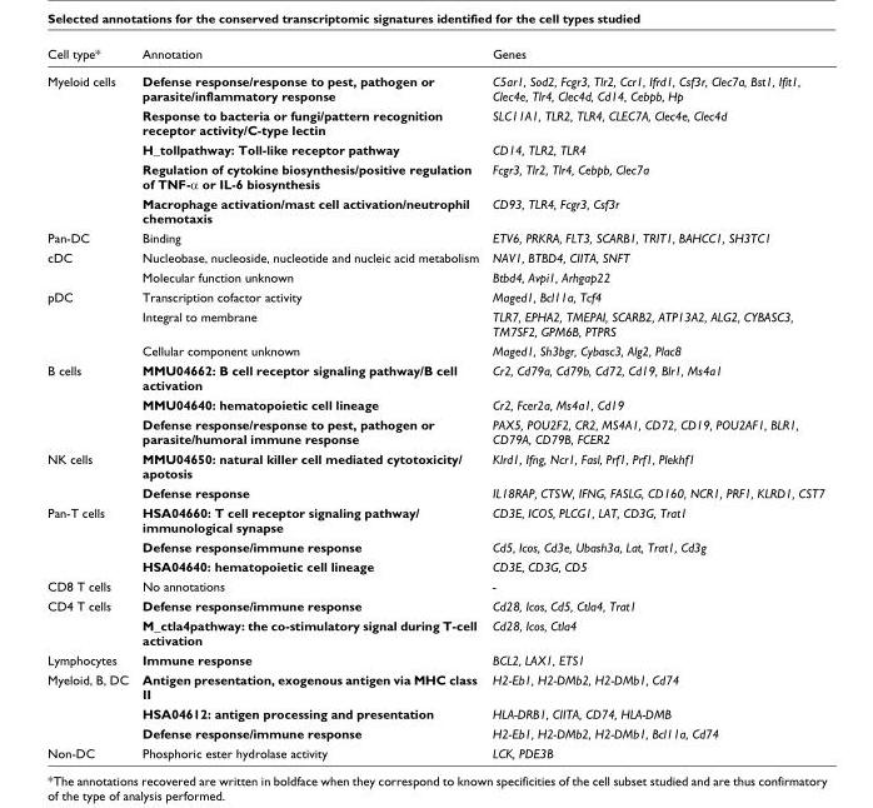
<table><thead><tr><td>Cell type*</td><td>Annotation</td><td>Genes</td></tr></thead><tbody><tr><td rowspan="5">Myeloid cells</td><td>Defense response/response to pest, pathogen or parasite/inflammatory response</td><td>C5ar1, Sod2, Fcgr3, Tlr2, Ccr1, Ifrd1, Csf3r, Clec7a, Bst1, Ifit1, Clec4e, Tlr4, Clec4d, Cd14, Cebpb, Hp</td></tr><tr><td>Response to bacteria or fungi/pattern recognition receptor activity/C-type lectin</td><td>SLC11A1, TLR2, TLR4, CLEC7A, Clec4e, Clec4d</td></tr><tr><td>H_tollpathway: Toll-like receptor pathway</td><td>CD14, TLR2, TLR4</td></tr><tr><td>Regulation of cytokine biosynthesis/positive regulation of TNF-α or IL-6 biosynthesis</td><td>Fcgr3, Tlr2, Tlr4, Cebpb, Clec7a</td></tr><tr><td>Macrophage activation/mast cell activation/neutrophil chemotaxis</td><td>CD93, TLR4, Fcgr3, Csf3r</td></tr><tr><td>Pan-DC</td><td>Binding</td><td>ETV6, PRKRA, FLT3, SCARB1, TRIT1, BAHCC1, SH3TC1</td></tr><tr><td rowspan="2">cDC</td><td>Nucleobase, nucleoside, nucleotide and nucleic acid metabolism</td><td>NAV1, BTBD4, CIITA, SNFT</td></tr><tr><td>Molecular function unknown</td><td>Btbd4, Avpi1, Arhgap22</td></tr><tr><td rowspan="3">pDC</td><td>Transcription cofactor activity</td><td>Maged1, Bcl11a, Tcf4</td></tr><tr><td>Integral to membrane</td><td>TLR7, EPHA2, TMEPAI, SCARB2, ATP13A2, ALG2, CYBASC3, TM7SF2, GPM6B, PTPRS</td></tr><tr><td>Cellular component unknown</td><td>Maged1, Sh3bgr, Cybasc3, Alg2, Plac8</td></tr><tr><td rowspan="3">B cells</td><td>MMU04662: B cell receptor signaling pathway/B cell activation</td><td>Cr2, Cd79a, Cd79b, Cd72, Cd19, Blr1, Ms4a1</td></tr><tr><td>MMU04640: hematopoietic cell lineage</td><td>Cr2, Fcer2a, Ms4a1, Cd19</td></tr><tr><td>Defense response/response to pest, pathogen or parasite/humoral immune response</td><td>PAX5, POU2F2, CR2, MS4A1, CD72, CD19, POU2AF1, BLR1, CD79A, CD79B, FCER2</td></tr><tr><td rowspan="2">NK cells</td><td>MMU04650: natural killer cell mediated cytotoxicity/ apotosis</td><td>Klrd1, Ifng, Ncr1, Fasl, Prf1, Prf1, Plekhf1</td></tr><tr><td>Defense response</td><td>IL18RAP, CTSW, IFNG, FASLG, CD160, NCR1, PRF1, KLRD1, CST7</td></tr><tr><td rowspan="3">Pan-T cells</td><td>HSA04660: T cell receptor signaling pathway/ immunological synapse</td><td>CD3E, ICOS, PLCG1, LAT, CD3G, Trat1</td></tr><tr><td>Defense response/immune response</td><td>Cd5, Icos, Cd3e, Ubash3a, Lat, Trat1, Cd3g</td></tr><tr><td>HSA04640: hematopoietic cell lineage</td><td>CD3E, CD3G, CD5</td></tr><tr><td>CD8 T cells</td><td>No annotations</td><td>-</td></tr><tr><td rowspan="2">CD4 T cells</td><td>Defense response/immune response</td><td>Cd28, Icos, Cd5, Ctla4, Trat1</td></tr><tr><td>M_ctla4pathway: the co-stimulatory signal during T-cell activation</td><td>Cd28, Icos, Ctla4</td></tr><tr><td>Lymphocytes</td><td>Immune response</td><td>BCL2, LAX1, ETS1</td></tr><tr><td rowspan="3">Myeloid, B, DC</td><td>Antigen presentation, exogenous antigen via MHC class II</td><td>H2-Eb1, H2-DMb2, H2-DMb1, Cd74</td></tr><tr><td>HSA04612: antigen processing and presentation</td><td>HLA-DRB1, CIITA, CD74, HLA-DMB</td></tr><tr><td>Defense response/immune response</td><td>H2-Eb1, H2-DMb2, H2-DMb1, Bcl11a, Cd74</td></tr><tr><td>Non-DC</td><td>Phosphoric ester hydrolase activity</td><td>LCK, PDE3B</td></tr></tbody></table>